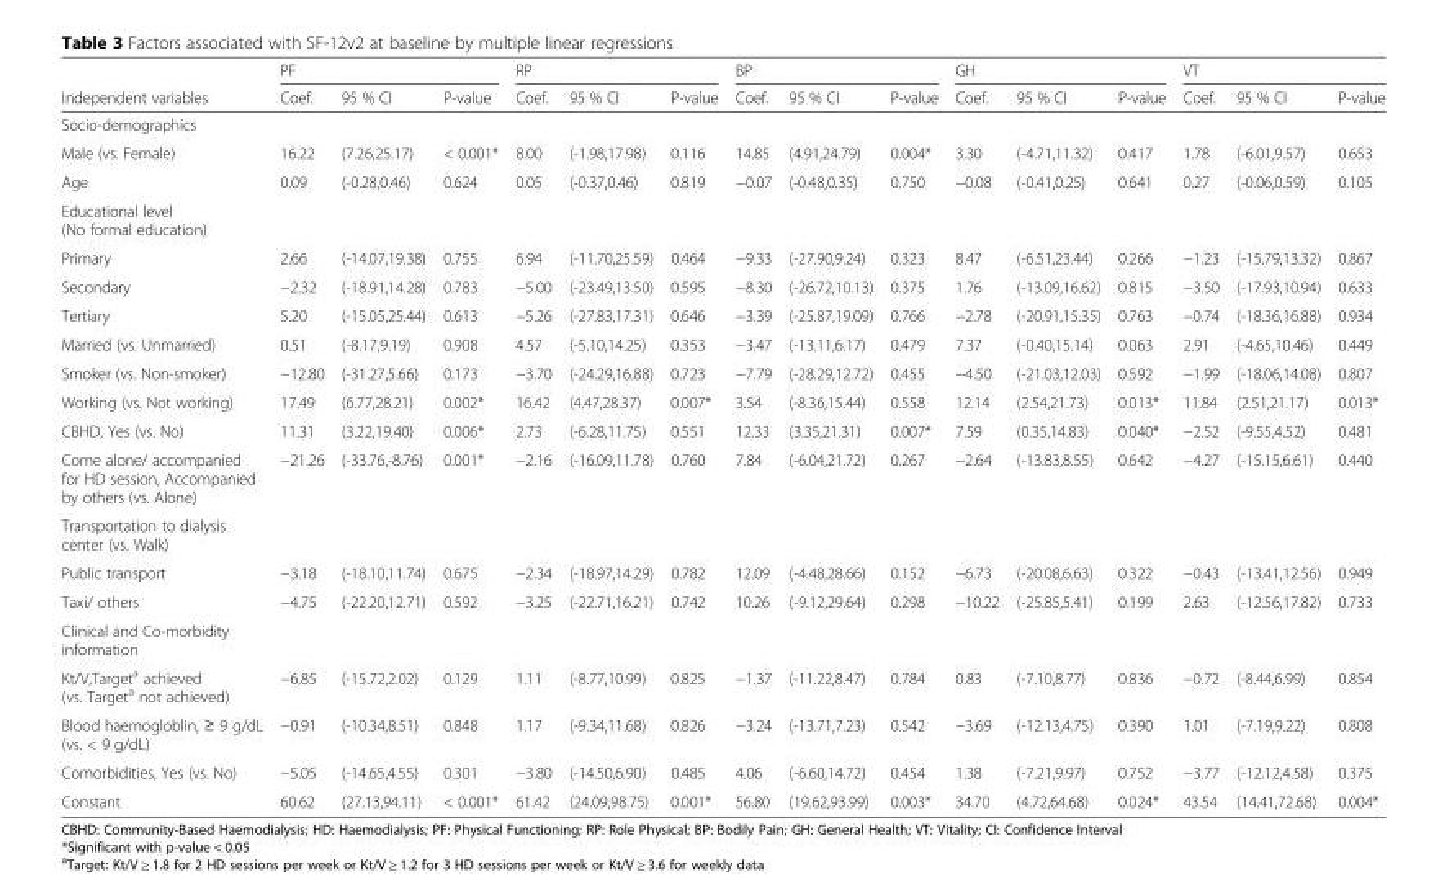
<table><thead><tr><td rowspan="2">Independent variables</td><td colspan="3">PF</td><td colspan="3">RP</td><td colspan="3">BP</td><td colspan="3">GH</td><td colspan="3">VT</td></tr><tr><td>Coef.</td><td>95 % CI</td><td>P-value</td><td>Coef.</td><td>95 % CI</td><td>P-value</td><td>Coef.</td><td>95 % CI</td><td>P-value</td><td>Coef.</td><td>95 % CI</td><td>P-value</td><td>Coef.</td><td>95 % CI</td><td>P-value</td></tr></thead><tbody><tr><td colspan="16">Socio-demographics</td></tr><tr><td>Male (vs. Female)</td><td>16.22</td><td>(7.26,25.17)</td><td>&lt; 0.001*</td><td>8.00</td><td>(-1.98,17.98)</td><td>0.116</td><td>14.85</td><td>(4.91,24.79)</td><td>0.004*</td><td>3.30</td><td>(-4.71,11.32)</td><td>0.417</td><td>1.78</td><td>(-6.01,9.57)</td><td>0.653</td></tr><tr><td>Age</td><td>0.09</td><td>(-0.28,0.46)</td><td>0.624</td><td>0.05</td><td>(-0.37,0.46)</td><td>0.819</td><td>−0.07</td><td>(-0.48,0.35)</td><td>0.750</td><td>−0.08</td><td>(-0.41,0.25)</td><td>0.641</td><td>0.27</td><td>(-0.06,0.59)</td><td>0.105</td></tr><tr><td colspan="16">Educational level (No formal education)</td></tr><tr><td>Primary</td><td>2.66</td><td>(-14.07,19.38)</td><td>0.755</td><td>6.94</td><td>(-11.70,25.59)</td><td>0.464</td><td>−9.33</td><td>(-27.90,9.24)</td><td>0.323</td><td>8.47</td><td>(-6.51,23.44)</td><td>0.266</td><td>−1.23</td><td>(-15.79,13.32)</td><td>0.867</td></tr><tr><td>Secondary</td><td>−2.32</td><td>(-18.91,14.28)</td><td>0.783</td><td>−5.00</td><td>(-23.49,13.50)</td><td>0.595</td><td>−8.30</td><td>(-26.72,10.13)</td><td>0.375</td><td>1.76</td><td>(-13.09,16.62)</td><td>0.815</td><td>−3.50</td><td>(-17.93,10.94)</td><td>0.633</td></tr><tr><td>Tertiary</td><td>5.20</td><td>(-15.05,25.44)</td><td>0.613</td><td>−5.26</td><td>(-27.83,17.31)</td><td>0.646</td><td>−3.39</td><td>(-25.87,19.09)</td><td>0.766</td><td>−2.78</td><td>(-20.91,15.35)</td><td>0.763</td><td>−0.74</td><td>(-18.36,16.88)</td><td>0.934</td></tr><tr><td>Married (vs. Unmarried)</td><td>0.51</td><td>(-8.17,9.19)</td><td>0.908</td><td>4.57</td><td>(-5.10,14.25)</td><td>0.353</td><td>−3.47</td><td>(-13.11,6.17)</td><td>0.479</td><td>7.37</td><td>(-0.40,15.14)</td><td>0.063</td><td>2.91</td><td>(-4.65,10.46)</td><td>0.449</td></tr><tr><td>Smoker (vs. Non-smoker)</td><td>−12.80</td><td>(-31.27,5.66)</td><td>0.173</td><td>−3.70</td><td>(-24.29,16.88)</td><td>0.723</td><td>−7.79</td><td>(-28.29,12.72)</td><td>0.455</td><td>−4.50</td><td>(-21.03,12.03)</td><td>0.592</td><td>−1.99</td><td>(-18.06,14.08)</td><td>0.807</td></tr><tr><td>Working (vs. Not working)</td><td>17.49</td><td>(6.77,28.21)</td><td>0.002*</td><td>16.42</td><td>(4.47,28.37)</td><td>0.007*</td><td>3.54</td><td>(-8.36,15.44)</td><td>0.558</td><td>12.14</td><td>(2.54,21.73)</td><td>0.013*</td><td>11.84</td><td>(2.51,21.17)</td><td>0.013*</td></tr><tr><td>CBHD, Yes (vs. No)</td><td>11.31</td><td>(3.22,19.40)</td><td>0.006*</td><td>2.73</td><td>(-6.28,11.75)</td><td>0.551</td><td>12.33</td><td>(3.35,21.31)</td><td>0.007*</td><td>7.59</td><td>(0.35,14.83)</td><td>0.040*</td><td>−2.52</td><td>(-9.55,4.52)</td><td>0.481</td></tr><tr><td>Come alone/ accompanied for HD session, Accompanied by others (vs. Alone)</td><td>−21.26</td><td>(-33.76,-8.76)</td><td>0.001*</td><td>−2.16</td><td>(-16.09,11.78)</td><td>0.760</td><td>7.84</td><td>(-6.04,21.72)</td><td>0.267</td><td>−2.64</td><td>(-13.83,8.55)</td><td>0.642</td><td>−4.27</td><td>(-15.15,6.61)</td><td>0.440</td></tr><tr><td colspan="16">Transportation to dialysis center (vs. Walk)</td></tr><tr><td>Public transport</td><td>−3.18</td><td>(-18.10,11.74)</td><td>0.675</td><td>−2.34</td><td>(-18.97,14.29)</td><td>0.782</td><td>12.09</td><td>(-4.48,28.66)</td><td>0.152</td><td>−6.73</td><td>(-20.08,6.63)</td><td>0.322</td><td>−0.43</td><td>(-13.41,12.56)</td><td>0.949</td></tr><tr><td>Taxi/ others</td><td>−4.75</td><td>(-22.20,12.71)</td><td>0.592</td><td>−3.25</td><td>(-22.71,16.21)</td><td>0.742</td><td>10.26</td><td>(-9.12,29.64)</td><td>0.298</td><td>−10.22</td><td>(-25.85,5.41)</td><td>0.199</td><td>2.63</td><td>(-12.56,17.82)</td><td>0.733</td></tr><tr><td colspan="16">Clinical and Co-morbidity information</td></tr><tr><td>Kt/V,Target<sup>a</sup> achieved (vs. Target<sup>a</sup> not achieved)</td><td>−6.85</td><td>(-15.72,2.02)</td><td>0.129</td><td>1.11</td><td>(-8.77,10.99)</td><td>0.825</td><td>−1.37</td><td>(-11.22,8.47)</td><td>0.784</td><td>0.83</td><td>(-7.10,8.77)</td><td>0.836</td><td>−0.72</td><td>(-8.44,6.99)</td><td>0.854</td></tr><tr><td>Blood haemogloblin, ≥ 9 g/dL (vs. &lt; 9 g/dL)</td><td>−0.91</td><td>(-10.34,8.51)</td><td>0.848</td><td>1.17</td><td>(-9.34,11.68)</td><td>0.826</td><td>−3.24</td><td>(-13.71,7.23)</td><td>0.542</td><td>−3.69</td><td>(-12.13,4.75)</td><td>0.390</td><td>1.01</td><td>(-7.19,9.22)</td><td>0.808</td></tr><tr><td>Comorbidities, Yes (vs. No)</td><td>−5.05</td><td>(-14.65,4.55)</td><td>0.301</td><td>−3.80</td><td>(-14.50,6.90)</td><td>0.485</td><td>4.06</td><td>(-6.60,14.72)</td><td>0.454</td><td>1.38</td><td>(-7.21,9.97)</td><td>0.752</td><td>−3.77</td><td>(-12.12,4.58)</td><td>0.375</td></tr><tr><td>Constant</td><td>60.62</td><td>(27.13,94.11)</td><td>&lt; 0.001*</td><td>61.42</td><td>(24.09,98.75)</td><td>0.001*</td><td>56.80</td><td>(19.62,93.99)</td><td>0.003*</td><td>34.70</td><td>(4.72,64.68)</td><td>0.024*</td><td>43.54</td><td>(14.41,72.68)</td><td>0.004*</td></tr></tbody></table>